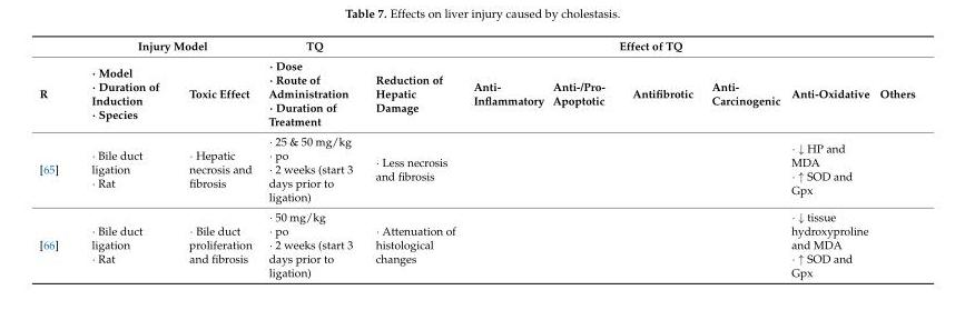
<table><thead><tr><td rowspan="2">R</td><td colspan="2">Injury Model</td><td rowspan="2">TQ · Dose · Route of Administration · Duration of Treatment</td><td colspan="7">Effect of TQ</td></tr><tr><td>· Model · Duration of Induction · Species</td><td>Toxic Effect</td><td>Reduction of Hepatic Damage</td><td>Anti- Inflammatory</td><td>Anti-/Pro- Apoptotic</td><td>Antifibrotic</td><td>Anti- Carcinogenic</td><td>Anti-Oxidative</td><td>Others</td></tr></thead><tbody><tr><td>[65]</td><td>· Bile duct ligation · Rat</td><td>· Hepatic necrosis and fibrosis</td><td>· 25 &amp; 50 mg/kg · po · 2 weeks (start 3 days prior to ligation)</td><td>· Less necrosis and fibrosis</td><td></td><td></td><td></td><td></td><td>· ↓ HP and MDA · ↑ SOD and Gpx</td><td></td></tr><tr><td>[66]</td><td>· Bile duct ligation · Rat</td><td>· Bile duct proliferation and fibrosis</td><td>· 50 mg/kg · po · 2 weeks (start 3 days prior to ligation)</td><td>· Attenuation of histological changes</td><td></td><td></td><td></td><td></td><td>· ↓ tissue hydroxyproline and MDA · ↑ SOD and Gpx</td><td></td></tr></tbody></table>